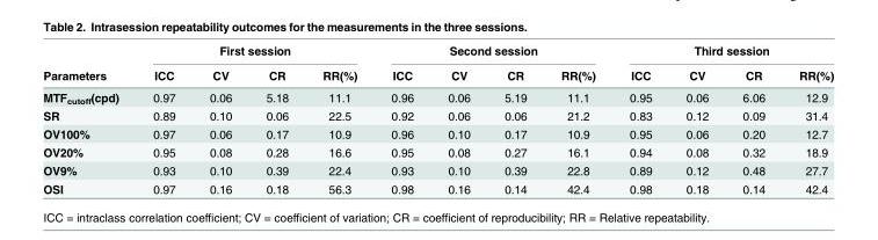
<table><thead><tr><td rowspan="2">Parameters</td><td colspan="4">First session</td><td colspan="4">Second session</td><td colspan="4">Third session</td></tr><tr><td>ICC</td><td>CV</td><td>CR</td><td>RR(%)</td><td>ICC</td><td>CV</td><td>CR</td><td>RR(%)</td><td>ICC</td><td>CV</td><td>CR</td><td>RR(%)</td></tr></thead><tbody><tr><td>MTF<sub>cutoff</sub>(cpd)</td><td>0.97</td><td>0.06</td><td>5.18</td><td>11.1</td><td>0.96</td><td>0.06</td><td>5.19</td><td>11.1</td><td>0.95</td><td>0.06</td><td>6.06</td><td>12.9</td></tr><tr><td>SR</td><td>0.89</td><td>0.10</td><td>0.06</td><td>22.5</td><td>0.92</td><td>0.06</td><td>0.06</td><td>21.2</td><td>0.83</td><td>0.12</td><td>0.09</td><td>31.4</td></tr><tr><td>OV100%</td><td>0.97</td><td>0.06</td><td>0.17</td><td>10.9</td><td>0.96</td><td>0.10</td><td>0.17</td><td>10.9</td><td>0.95</td><td>0.06</td><td>0.20</td><td>12.7</td></tr><tr><td>OV20%</td><td>0.95</td><td>0.08</td><td>0.28</td><td>16.6</td><td>0.95</td><td>0.08</td><td>0.27</td><td>16.1</td><td>0.94</td><td>0.08</td><td>0.32</td><td>18.9</td></tr><tr><td>OV9%</td><td>0.93</td><td>0.10</td><td>0.39</td><td>22.4</td><td>0.93</td><td>0.10</td><td>0.39</td><td>22.8</td><td>0.89</td><td>0.12</td><td>0.48</td><td>27.7</td></tr><tr><td>OSI</td><td>0.97</td><td>0.16</td><td>0.18</td><td>56.3</td><td>0.98</td><td>0.16</td><td>0.14</td><td>42.4</td><td>0.98</td><td>0.18</td><td>0.14</td><td>42.4</td></tr></tbody></table>